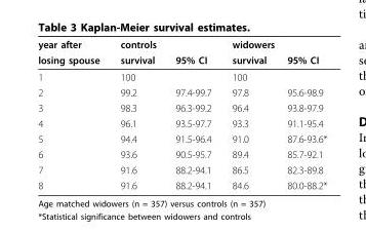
<table><thead><tr><td rowspan="2">year after losing spouse</td><td colspan="2">controls</td><td colspan="2">widowers</td></tr><tr><td>survival</td><td>95% CI</td><td>survival</td><td>95% CI</td></tr></thead><tbody><tr><td>1</td><td>100</td><td></td><td>100</td><td></td></tr><tr><td>2</td><td>99.2</td><td>97.4-99.7</td><td>97.8</td><td>95.6-98.9</td></tr><tr><td>3</td><td>98.3</td><td>96.3-99.2</td><td>96.4</td><td>93.8-97.9</td></tr><tr><td>4</td><td>96.1</td><td>93.5-97.7</td><td>93.3</td><td>91.1-95.4</td></tr><tr><td>5</td><td>94.4</td><td>91.5-96.4</td><td>91.0</td><td>87.6-93.6*</td></tr><tr><td>6</td><td>93.6</td><td>90.5-95.7</td><td>89.4</td><td>85.7-92.1</td></tr><tr><td>7</td><td>91.6</td><td>88.2-94.1</td><td>86.5</td><td>82.3-89.8</td></tr><tr><td>8</td><td>91.6</td><td>88.2-94.1</td><td>84.6</td><td>80.0-88.2*</td></tr></tbody></table>